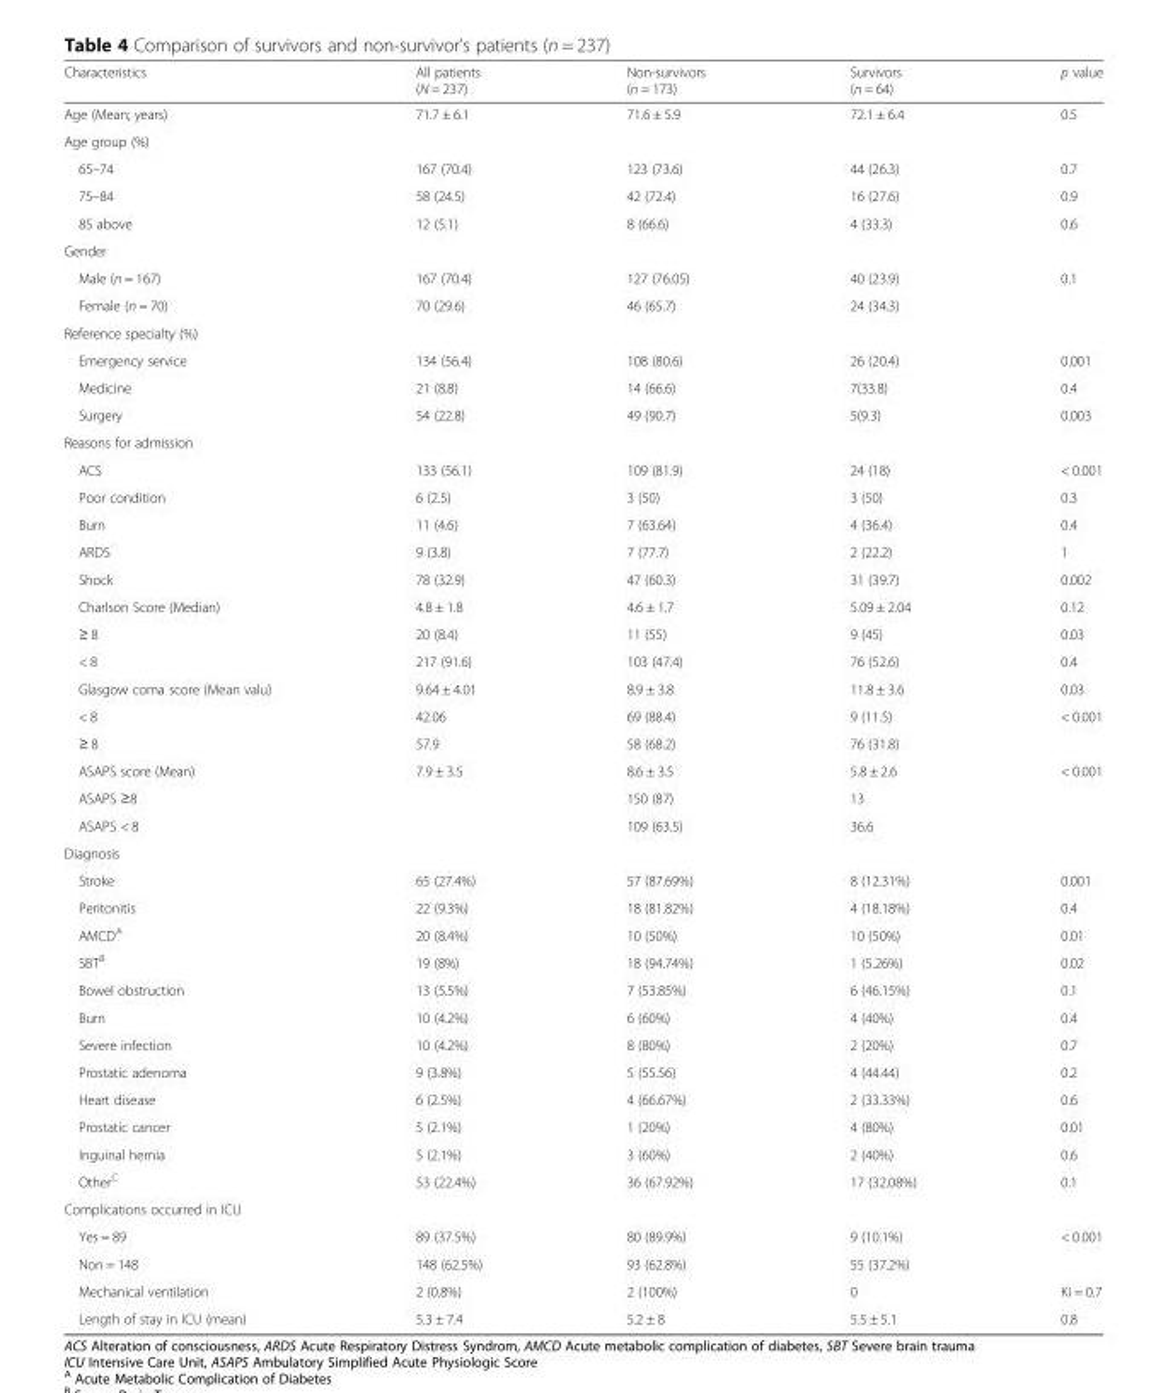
<table><thead><tr><td>Characteristics</td><td>All patients (N = 237)</td><td>Non-survivors (n = 173)</td><td>Survivors (n = 64)</td><td>p value</td></tr></thead><tbody><tr><td>Age (Mean; years)</td><td>71.7 ± 6.1</td><td>71.6 ± 5.9</td><td>72.1 ± 6.4</td><td>0.5</td></tr><tr><td colspan="5">Age group (%)</td></tr><tr><td>65–74</td><td>167 (70.4)</td><td>123 (73.6)</td><td>44 (26.3)</td><td>0.7</td></tr><tr><td>75–84</td><td>58 (24.5)</td><td>42 (72.4)</td><td>16 (27.6)</td><td>0.9</td></tr><tr><td>85 above</td><td>12 (5.1)</td><td>8 (66.6)</td><td>4 (33.3)</td><td>0.6</td></tr><tr><td colspan="5">Gender</td></tr><tr><td>Male (n = 167)</td><td>167 (70.4)</td><td>127 (76.05)</td><td>40 (23.9)</td><td>0.1</td></tr><tr><td>Female (n = 70)</td><td>70 (29.6)</td><td>46 (65.7)</td><td>24 (34.3)</td><td></td></tr><tr><td colspan="5">Reference specialty (%)</td></tr><tr><td>Emergency service</td><td>134 (56.4)</td><td>108 (80.6)</td><td>26 (20.4)</td><td>0.001</td></tr><tr><td>Medicine</td><td>21 (8.8)</td><td>14 (66.6)</td><td>7(33.8)</td><td>0.4</td></tr><tr><td>Surgery</td><td>54 (22.8)</td><td>49 (90.7)</td><td>5(9.3)</td><td>0.003</td></tr><tr><td colspan="5">Reasons for admission</td></tr><tr><td>ACS</td><td>133 (56.1)</td><td>109 (81.9)</td><td>24 (18)</td><td>&lt; 0.001</td></tr><tr><td>Poor condition</td><td>6 (2.5)</td><td>3 (50)</td><td>3 (50)</td><td>0.3</td></tr><tr><td>Burn</td><td>11 (4.6)</td><td>7 (63.64)</td><td>4 (36.4)</td><td>0.4</td></tr><tr><td>ARDS</td><td>9 (3.8)</td><td>7 (77.7)</td><td>2 (22.2)</td><td>1</td></tr><tr><td>Shock</td><td>78 (32.9)</td><td>47 (60.3)</td><td>31 (39.7)</td><td>0.002</td></tr><tr><td>Charlson Score (Median)</td><td>4.8 ± 1.8</td><td>4.6 ± 1.7</td><td>5.09 ± 2.04</td><td>0.12</td></tr><tr><td>≥ 8</td><td>20 (8.4)</td><td>11 (55)</td><td>9 (45)</td><td>0.03</td></tr><tr><td>&lt; 8</td><td>217 (91.6)</td><td>103 (47.4)</td><td>76 (52.6)</td><td>0.4</td></tr><tr><td>Glasgow coma score (Mean valu)</td><td>9.64 ± 4.01</td><td>8.9 ± 3.8</td><td>11.8 ± 3.6</td><td>0.03</td></tr><tr><td>&lt; 8</td><td>42.06</td><td>69 (88.4)</td><td>9 (11.5)</td><td>&lt; 0.001</td></tr><tr><td>≥ 8</td><td>57.9</td><td>58 (68.2)</td><td>76 (31.8)</td><td></td></tr><tr><td>ASAPS score (Mean)</td><td>7.9 ± 3.5</td><td>8.6 ± 3.5</td><td>5.8 ± 2.6</td><td>&lt; 0.001</td></tr><tr><td>ASAPS ≥8</td><td></td><td>150 (87)</td><td>13</td><td></td></tr><tr><td>ASAPS &lt; 8</td><td></td><td>109 (63.5)</td><td>36.6</td><td></td></tr><tr><td colspan="5">Diagnosis</td></tr><tr><td>Stroke</td><td>65 (27.4%)</td><td>57 (87.69%)</td><td>8 (12.31%)</td><td>0.001</td></tr><tr><td>Peritonitis</td><td>22 (9.3%)</td><td>18 (81.82%)</td><td>4 (18.18%)</td><td>0.4</td></tr><tr><td>AMCD<sup>A</sup></td><td>20 (8.4%)</td><td>10 (50%)</td><td>10 (50%)</td><td>0.01</td></tr><tr><td>SBT<sup>B</sup></td><td>19 (8%)</td><td>18 (94.74%)</td><td>1 (5.26%)</td><td>0.02</td></tr><tr><td>Bowel obstruction</td><td>13 (5.5%)</td><td>7 (53.85%)</td><td>6 (46.15%)</td><td>0.1</td></tr><tr><td>Burn</td><td>10 (4.2%)</td><td>6 (60%)</td><td>4 (40%)</td><td>0.4</td></tr><tr><td>Severe infection</td><td>10 (4.2%)</td><td>8 (80%)</td><td>2 (20%)</td><td>0.7</td></tr><tr><td>Prostatic adenoma</td><td>9 (3.8%)</td><td>5 (55.56)</td><td>4 (44.44)</td><td>0.2</td></tr><tr><td>Heart disease</td><td>6 (2.5%)</td><td>4 (66.67%)</td><td>2 (33.33%)</td><td>0.6</td></tr><tr><td>Prostatic cancer</td><td>5 (2.1%)</td><td>1 (20%)</td><td>4 (80%)</td><td>0.01</td></tr><tr><td>Inguinal hernia</td><td>5 (2.1%)</td><td>3 (60%)</td><td>2 (40%)</td><td>0.6</td></tr><tr><td>Other<sup>C</sup></td><td>53 (22.4%)</td><td>36 (67.92%)</td><td>17 (32.08%)</td><td>0.1</td></tr><tr><td colspan="5">Complications occurred in ICU</td></tr><tr><td>Yes = 89</td><td>89 (37.5%)</td><td>80 (89.9%)</td><td>9 (10.1%)</td><td>&lt; 0.001</td></tr><tr><td>Non = 148</td><td>148 (62.5%)</td><td>93 (62.8%)</td><td>55 (37.2%)</td><td></td></tr><tr><td>Mechanical ventilation</td><td>2 (0.8%)</td><td>2 (100%)</td><td>0</td><td>Ki = 0.7</td></tr><tr><td>Length of stay in ICU (mean)</td><td>5.3 ± 7.4</td><td>5.2 ± 8</td><td>5.5 ± 5.1</td><td>0.8</td></tr></tbody></table>